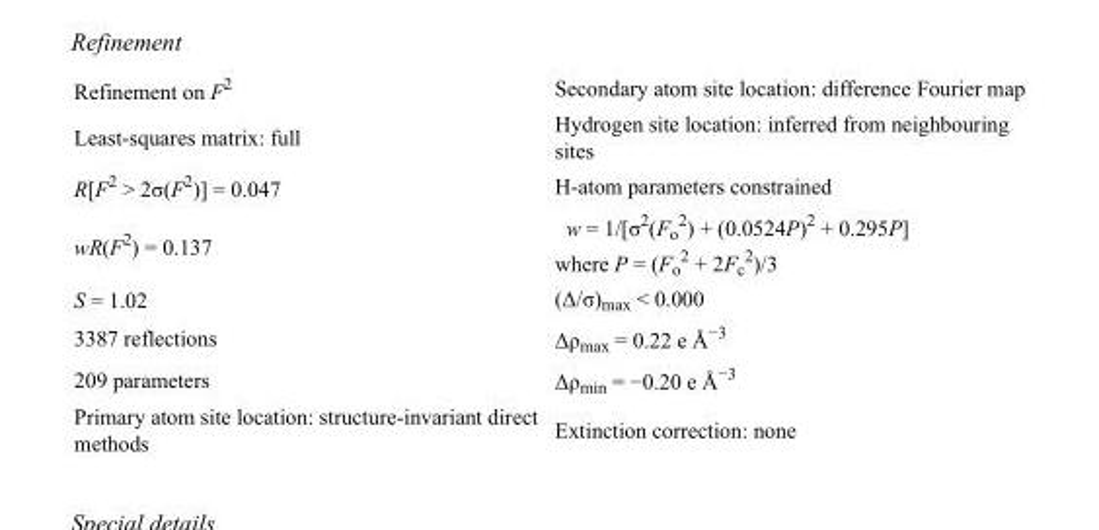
<table><tbody><tr><td>Refinement on F<sup>2</sup></td><td>Secondary atom site location: difference Fourier map</td></tr><tr><td>Least-squares matrix: full</td><td>Hydrogen site location: inferred from neighbouring sites</td></tr><tr><td>R[F<sup>2</sup> &gt; 2σ(F<sup>2</sup>)] = 0.047</td><td>H-atom parameters constrained</td></tr><tr><td>wR(F<sup>2</sup>) = 0.137</td><td>w = 1/[σ<sup>2</sup>(F<sub>o</sub> <sup>2</sup>) + (0.0524P)<sup>2</sup> + 0.295P] where P = (F<sub>o</sub> <sup>2</sup> + 2F<sub>c</sub> <sup>2</sup>)/3</td></tr><tr><td>S = 1.02</td><td>(Δ/σ)<sub>max</sub> &lt; 0.000</td></tr><tr><td>3387 reflections</td><td>Δρ<sub>max</sub> = 0.22 e Å<sup>−3</sup></td></tr><tr><td>209 parameters</td><td>Δρ<sub>min</sub> = −0.20 e Å<sup>−3</sup></td></tr><tr><td>Primary atom site location: structure-invariant direct methods</td><td>Extinction correction: none</td></tr></tbody></table>